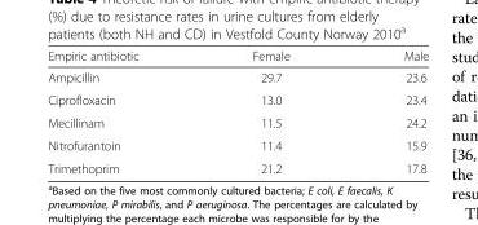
<table><thead><tr><td>Empiric antibiotic</td><td>Female</td><td>Male</td></tr></thead><tbody><tr><td>Ampicillin</td><td>29.7</td><td>23.6</td></tr><tr><td>Ciprofloxacin</td><td>13.0</td><td>23.4</td></tr><tr><td>Mecillinam</td><td>11.5</td><td>24.2</td></tr><tr><td>Nitrofurantoin</td><td>11.4</td><td>15.9</td></tr><tr><td>Trimethoprim</td><td>21.2</td><td>17.8</td></tr></tbody></table>